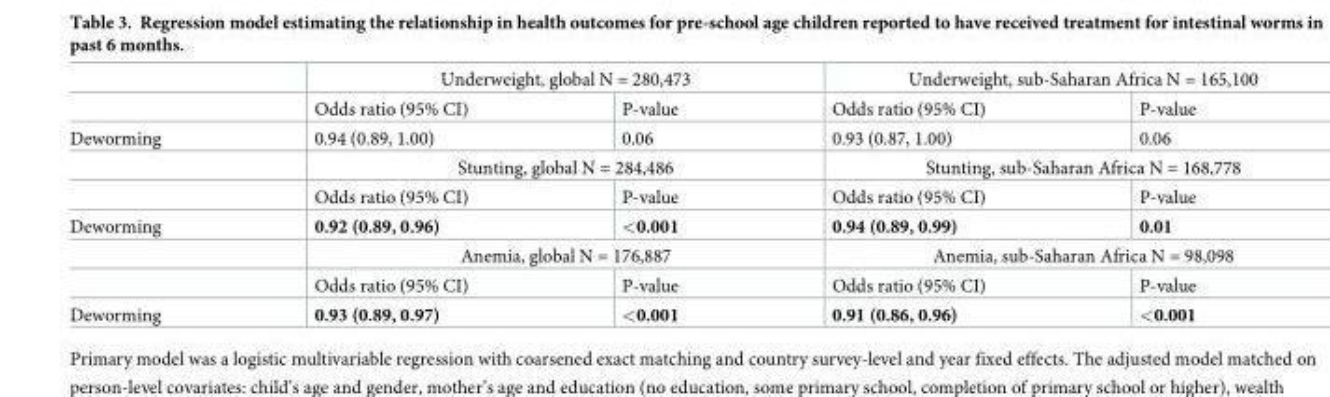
<table><thead><tr><td rowspan="2"></td><td colspan="2">Underweight, global N = 280,473</td><td colspan="2">Underweight, sub-Saharan Africa N = 165,100</td></tr><tr><td>Odds ratio (95% CI)</td><td>P-value</td><td>Odds ratio (95% CI)</td><td>P-value</td></tr></thead><tbody><tr><td rowspan="3">Deworming</td><td>0.94 (0.89, 1.00)</td><td>0.06</td><td>0.93 (0.87, 1.00)</td><td>0.06</td></tr><tr><td colspan="2">Stunting, global N = 284,486</td><td colspan="2">Stunting, sub-Saharan Africa N = 168,778</td></tr><tr><td>Odds ratio (95% CI)</td><td>P-value</td><td>Odds ratio (95% CI)</td><td>P-value</td></tr><tr><td rowspan="3">Deworming</td><td>0.92 (0.89, 0.96)</td><td>&lt;0.001</td><td>0.94 (0.89, 0.99)</td><td>0.01</td></tr><tr><td colspan="2">Anemia, global N = 176,887</td><td colspan="2">Anemia, sub-Saharan Africa N = 98,098</td></tr><tr><td>Odds ratio (95% CI)</td><td>P-value</td><td>Odds ratio (95% CI)</td><td>P-value</td></tr><tr><td>Deworming</td><td>0.93 (0.89, 0.97)</td><td>&lt;0.001</td><td>0.91 (0.86, 0.96)</td><td>&lt;0.001</td></tr></tbody></table>